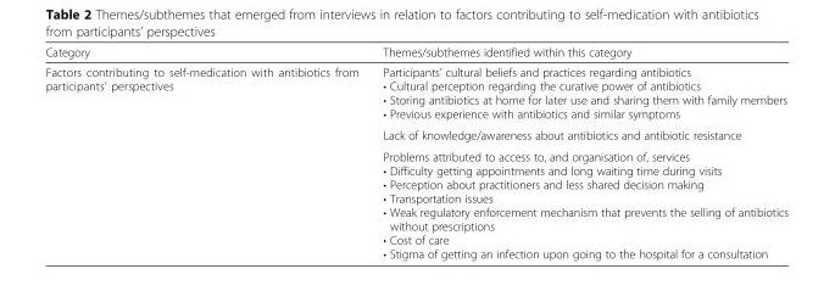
<table><thead><tr><td>Category</td><td>Themes/subthemes identified within this category</td></tr></thead><tbody><tr><td rowspan="3">Factors contributing to self-medication with antibiotics from participants’ perspectives</td><td>Participants’ cultural beliefs and practices regarding antibiotics • Cultural perception regarding the curative power of antibiotics • Storing antibiotics at home for later use and sharing them with family members • Previous experience with antibiotics and similar symptoms</td></tr><tr><td>Lack of knowledge/awareness about antibiotics and antibiotic resistance</td></tr><tr><td>Problems attributed to access to, and organisation of, services • Difficulty getting appointments and long waiting time during visits • Perception about practitioners and less shared decision making • Transportation issues • Weak regulatory enforcement mechanism that prevents the selling of antibiotics without prescriptions • Cost of care • Stigma of getting an infection upon going to the hospital for a consultation</td></tr></tbody></table>